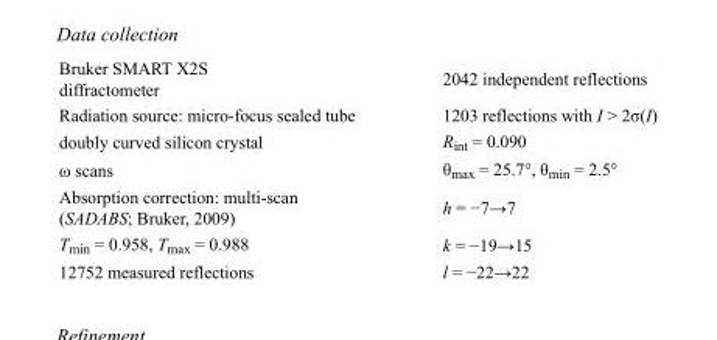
<table><tbody><tr><td>Bruker SMART X2S diffractometer</td><td>2042 independent reflections</td></tr><tr><td>Radiation source: micro-focus sealed tube</td><td>1203 reflections with I &gt; 2σ(I)</td></tr><tr><td>doubly curved silicon crystal</td><td>R<sub>int</sub> = 0.090</td></tr><tr><td>ω scans</td><td>θ<sub>max</sub> = 25.7°, θ<sub>min</sub> = 2.5°</td></tr><tr><td>Absorption correction: multi-scan (SADABS; Bruker, 2009)</td><td>h = −7→7</td></tr><tr><td>T<sub>min</sub> = 0.958, T<sub>max</sub> = 0.988</td><td>k = −19→15</td></tr><tr><td>12752 measured reflections</td><td>l = −22→22</td></tr></tbody></table>